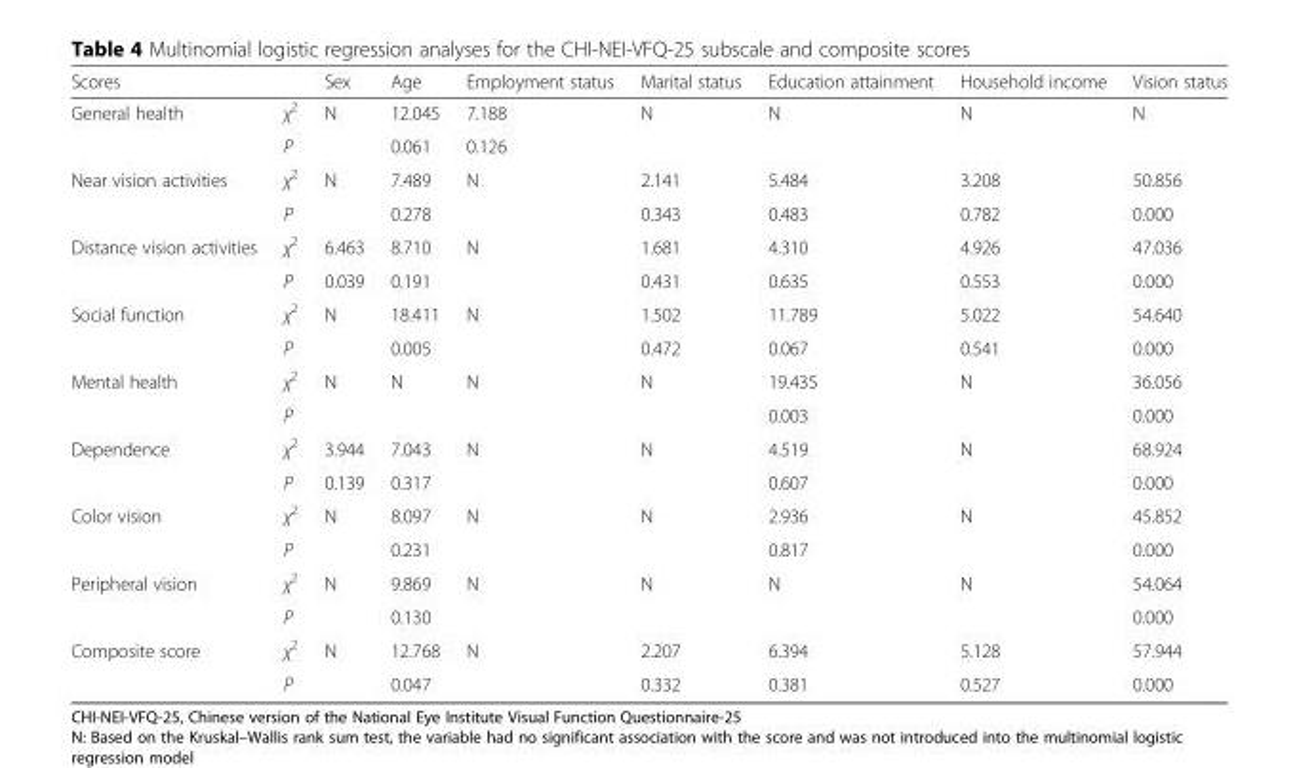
<table><thead><tr><td>Scores</td><td></td><td>Sex</td><td>Age</td><td>Employment status</td><td>Marital status</td><td>Education attainment</td><td>Household income</td><td>Vision status</td></tr></thead><tbody><tr><td rowspan="2">General health</td><td>χ<sup>2</sup></td><td>N</td><td>12.045</td><td>7.188</td><td>N</td><td>N</td><td>N</td><td>N</td></tr><tr><td>P</td><td></td><td>0.061</td><td>0.126</td><td></td><td></td><td></td><td></td></tr><tr><td rowspan="2">Near vision activities</td><td>χ<sup>2</sup></td><td>N</td><td>7.489</td><td>N</td><td>2.141</td><td>5.484</td><td>3.208</td><td>50.856</td></tr><tr><td>P</td><td></td><td>0.278</td><td></td><td>0.343</td><td>0.483</td><td>0.782</td><td>0.000</td></tr><tr><td rowspan="2">Distance vision activities</td><td>χ<sup>2</sup></td><td>6.463</td><td>8.710</td><td>N</td><td>1.681</td><td>4.310</td><td>4.926</td><td>47.036</td></tr><tr><td>P</td><td>0.039</td><td>0.191</td><td></td><td>0.431</td><td>0.635</td><td>0.553</td><td>0.000</td></tr><tr><td rowspan="2">Social function</td><td>χ<sup>2</sup></td><td>N</td><td>18.411</td><td>N</td><td>1.502</td><td>11.789</td><td>5.022</td><td>54.640</td></tr><tr><td>P</td><td></td><td>0.005</td><td></td><td>0.472</td><td>0.067</td><td>0.541</td><td>0.000</td></tr><tr><td rowspan="2">Mental health</td><td>χ<sup>2</sup></td><td>N</td><td>N</td><td>N</td><td>N</td><td>19.435</td><td>N</td><td>36.056</td></tr><tr><td>P</td><td></td><td></td><td></td><td></td><td>0.003</td><td></td><td>0.000</td></tr><tr><td rowspan="2">Dependence</td><td>χ<sup>2</sup></td><td>3.944</td><td>7.043</td><td>N</td><td>N</td><td>4.519</td><td>N</td><td>68.924</td></tr><tr><td>P</td><td>0.139</td><td>0.317</td><td></td><td></td><td>0.607</td><td></td><td>0.000</td></tr><tr><td rowspan="2">Color vision</td><td>χ<sup>2</sup></td><td>N</td><td>8.097</td><td>N</td><td>N</td><td>2.936</td><td>N</td><td>45.852</td></tr><tr><td>P</td><td></td><td>0.231</td><td></td><td></td><td>0.817</td><td></td><td>0.000</td></tr><tr><td rowspan="2">Peripheral vision</td><td>χ<sup>2</sup></td><td>N</td><td>9.869</td><td>N</td><td>N</td><td>N</td><td>N</td><td>54.064</td></tr><tr><td>P</td><td></td><td>0.130</td><td></td><td></td><td></td><td></td><td>0.000</td></tr><tr><td rowspan="2">Composite score</td><td>χ<sup>2</sup></td><td>N</td><td>12.768</td><td>N</td><td>2.207</td><td>6.394</td><td>5.128</td><td>57.944</td></tr><tr><td>P</td><td></td><td>0.047</td><td></td><td>0.332</td><td>0.381</td><td>0.527</td><td>0.000</td></tr></tbody></table>